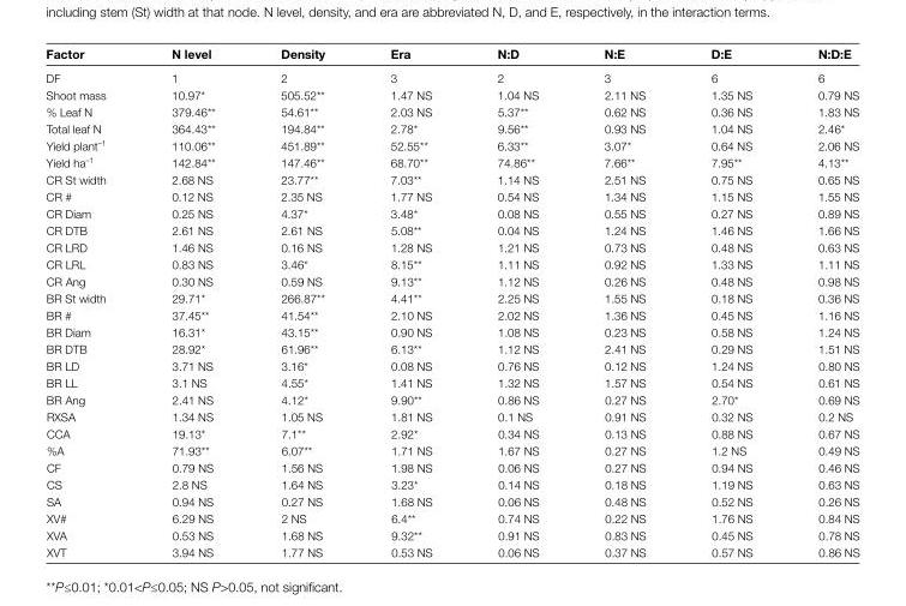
<table><thead><tr><td>Factor</td><td>N level</td><td>Density</td><td>Era</td><td>N:D</td><td>N:E</td><td>D:E</td><td>N:D:E</td></tr></thead><tbody><tr><td>DF</td><td>1</td><td>2</td><td>3</td><td>2</td><td>3</td><td>6</td><td>6</td></tr><tr><td>Shoot mass</td><td>10.97*</td><td>505.52**</td><td>1.47 NS</td><td>1.04 NS</td><td>2.11 NS</td><td>1.35 NS</td><td>0.79 NS</td></tr><tr><td>% Leaf N</td><td>379.46**</td><td>54.61**</td><td>2.03 NS</td><td>5.37**</td><td>0.62 NS</td><td>0.36 NS</td><td>1.83 NS</td></tr><tr><td>Total leaf N</td><td>364.43**</td><td>194.84**</td><td>2.78*</td><td>9.56**</td><td>0.93 NS</td><td>1.04 NS</td><td>2.46*</td></tr><tr><td>Yield plant<sup>–1</sup></td><td>110.06**</td><td>451.89**</td><td>52.55**</td><td>6.33**</td><td>3.07*</td><td>0.64 NS</td><td>2.06 NS</td></tr><tr><td>Yield ha<sup>–1</sup></td><td>142.84**</td><td>147.46**</td><td>68.70**</td><td>74.86**</td><td>7.66**</td><td>7.95**</td><td>4.13**</td></tr><tr><td>CR St width</td><td>2.68 NS</td><td>23.77**</td><td>7.03**</td><td>1.14 NS</td><td>2.51 NS</td><td>0.75 NS</td><td>0.65 NS</td></tr><tr><td>CR #</td><td>0.12 NS</td><td>2.35 NS</td><td>1.77 NS</td><td>0.54 NS</td><td>1.34 NS</td><td>1.15 NS</td><td>1.55 NS</td></tr><tr><td>CR Diam</td><td>0.25 NS</td><td>4.37*</td><td>3.48*</td><td>0.08 NS</td><td>0.55 NS</td><td>0.27 NS</td><td>0.89 NS</td></tr><tr><td>CR DTB</td><td>2.61 NS</td><td>2.61 NS</td><td>5.08**</td><td>0.04 NS</td><td>1.24 NS</td><td>1.46 NS</td><td>1.66 NS</td></tr><tr><td>CR LRD</td><td>1.46 NS</td><td>0.16 NS</td><td>1.28 NS</td><td>1.21 NS</td><td>0.73 NS</td><td>0.48 NS</td><td>0.63 NS</td></tr><tr><td>CR LRL</td><td>0.83 NS</td><td>3.46*</td><td>8.15**</td><td>1.11 NS</td><td>0.92 NS</td><td>1.33 NS</td><td>1.11 NS</td></tr><tr><td>CR Ang</td><td>0.30 NS</td><td>0.59 NS</td><td>9.13**</td><td>1.12 NS</td><td>0.26 NS</td><td>0.48 NS</td><td>0.98 NS</td></tr><tr><td>BR St width</td><td>29.71*</td><td>266.87**</td><td>4.41**</td><td>2.25 NS</td><td>1.55 NS</td><td>0.18 NS</td><td>0.36 NS</td></tr><tr><td>BR #</td><td>37.45**</td><td>41.54**</td><td>2.10 NS</td><td>2.02 NS</td><td>1.36 NS</td><td>0.45 NS</td><td>1.16 NS</td></tr><tr><td>BR Diam</td><td>16.31*</td><td>43.15**</td><td>0.90 NS</td><td>1.08 NS</td><td>0.23 NS</td><td>0.58 NS</td><td>1.24 NS</td></tr><tr><td>BR DTB</td><td>28.92*</td><td>61.96**</td><td>6.13**</td><td>1.12 NS</td><td>2.41 NS</td><td>0.29 NS</td><td>1.51 NS</td></tr><tr><td>BR LD</td><td>3.71 NS</td><td>3.16*</td><td>0.08 NS</td><td>0.76 NS</td><td>0.12 NS</td><td>1.24 NS</td><td>0.80 NS</td></tr><tr><td>BR LL</td><td>3.1 NS</td><td>4.55*</td><td>1.41 NS</td><td>1.32 NS</td><td>1.57 NS</td><td>0.54 NS</td><td>0.61 NS</td></tr><tr><td>BR Ang</td><td>2.41 NS</td><td>4.12*</td><td>9.90**</td><td>0.86 NS</td><td>0.27 NS</td><td>2.70*</td><td>0.69 NS</td></tr><tr><td>RXSA</td><td>1.34 NS</td><td>1.05 NS</td><td>1.81 NS</td><td>0.1 NS</td><td>0.91 NS</td><td>0.32 NS</td><td>0.2 NS</td></tr><tr><td>CCA</td><td>19.13*</td><td>7.1**</td><td>2.92*</td><td>0.34 NS</td><td>0.13 NS</td><td>0.88 NS</td><td>0.67 NS</td></tr><tr><td>%A</td><td>71.93**</td><td>6.07**</td><td>1.71 NS</td><td>1.67 NS</td><td>0.27 NS</td><td>1.2 NS</td><td>0.49 NS</td></tr><tr><td>CF</td><td>0.79 NS</td><td>1.56 NS</td><td>1.98 NS</td><td>0.06 NS</td><td>0.27 NS</td><td>0.94 NS</td><td>0.46 NS</td></tr><tr><td>CS</td><td>2.8 NS</td><td>1.64 NS</td><td>3.23*</td><td>0.14 NS</td><td>0.18 NS</td><td>1.19 NS</td><td>0.63 NS</td></tr><tr><td>SA</td><td>0.94 NS</td><td>0.27 NS</td><td>1.68 NS</td><td>0.06 NS</td><td>0.48 NS</td><td>0.52 NS</td><td>0.26 NS</td></tr><tr><td>XV#</td><td>6.29 NS</td><td>2 NS</td><td>6.4**</td><td>0.74 NS</td><td>0.22 NS</td><td>1.76 NS</td><td>0.84 NS</td></tr><tr><td>XVA</td><td>0.53 NS</td><td>1.68 NS</td><td>9.32**</td><td>0.91 NS</td><td>0.83 NS</td><td>0.45 NS</td><td>0.78 NS</td></tr><tr><td>XVT</td><td>3.94 NS</td><td>1.77 NS</td><td>0.53 NS</td><td>0.06 NS</td><td>0.37 NS</td><td>0.57 NS</td><td>0.86 NS</td></tr></tbody></table>